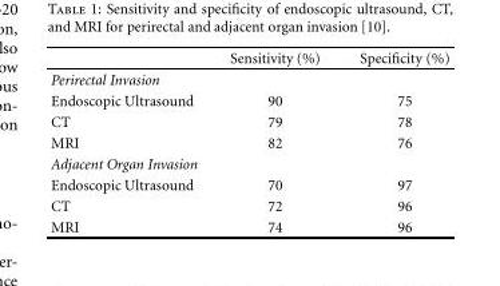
<table><thead><tr><td></td><td>Sensitivity (%)</td><td>Specificity (%)</td></tr></thead><tbody><tr><td colspan="3">Perirectal Invasion</td></tr><tr><td>Endoscopic Ultrasound</td><td>90</td><td>75</td></tr><tr><td>CT</td><td>79</td><td>78</td></tr><tr><td>MRI</td><td>82</td><td>76</td></tr><tr><td colspan="3">Adjacent Organ Invasion</td></tr><tr><td>Endoscopic Ultrasound</td><td>70</td><td>97</td></tr><tr><td>CT</td><td>72</td><td>96</td></tr><tr><td>MRI</td><td>74</td><td>96</td></tr></tbody></table>